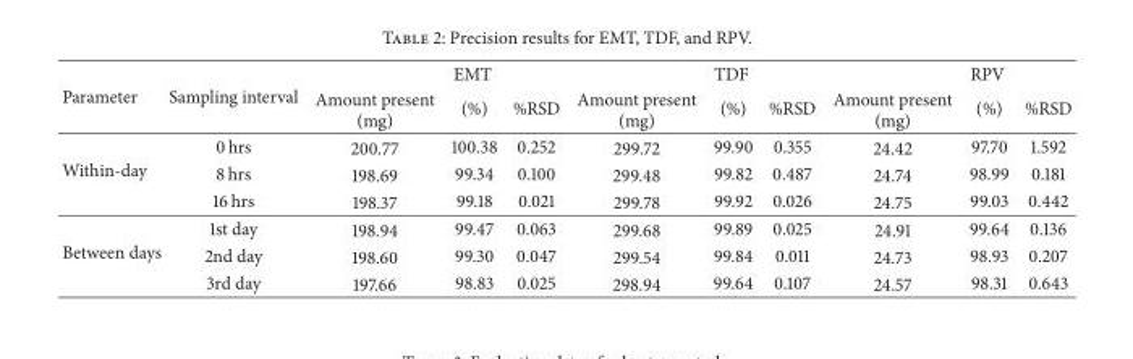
<table><thead><tr><td rowspan="2">Parameter</td><td rowspan="2">Sampling interval</td><td colspan="3">EMT</td><td colspan="3">TDF</td><td colspan="3">RPV</td></tr><tr><td>Amount present (mg)</td><td>(%)</td><td>%RSD</td><td>Amount present (mg)</td><td>(%)</td><td>%RSD</td><td>Amount present (mg)</td><td>(%)</td><td>%RSD</td></tr></thead><tbody><tr><td rowspan="3">Within-day</td><td>0 hrs</td><td>200.77</td><td>100.38</td><td>0.252</td><td>299.72</td><td>99.90</td><td>0.355</td><td>24.42</td><td>97.70</td><td>1.592</td></tr><tr><td>8 hrs</td><td>198.69</td><td>99.34</td><td>0.100</td><td>299.48</td><td>99.82</td><td>0.487</td><td>24.74</td><td>98.99</td><td>0.181</td></tr><tr><td>16 hrs</td><td>198.37</td><td>99.18</td><td>0.021</td><td>299.78</td><td>99.92</td><td>0.026</td><td>24.75</td><td>99.03</td><td>0.442</td></tr><tr><td rowspan="3">Between days</td><td>1st day</td><td>198.94</td><td>99.47</td><td>0.063</td><td>299.68</td><td>99.89</td><td>0.025</td><td>24.91</td><td>99.64</td><td>0.136</td></tr><tr><td>2nd day</td><td>198.60</td><td>99.30</td><td>0.047</td><td>299.54</td><td>99.84</td><td>0.011</td><td>24.73</td><td>98.93</td><td>0.207</td></tr><tr><td>3rd day</td><td>197.66</td><td>98.83</td><td>0.025</td><td>298.94</td><td>99.64</td><td>0.107</td><td>24.57</td><td>98.31</td><td>0.643</td></tr></tbody></table>